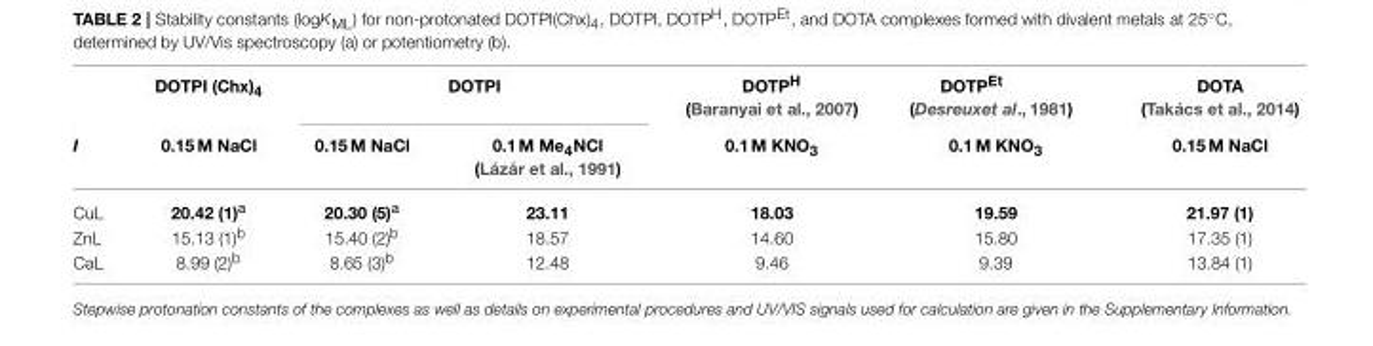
<table><thead><tr><td rowspan="2">I</td><td rowspan="2">DOTPI (Chx)<sub>4</sub> 0.15 M NaCl</td><td colspan="2">DOTPI</td><td rowspan="2">DOTP<sup>H</sup> (Baranyai et al., 2007) 0.1 M KNO<sub>3</sub></td><td rowspan="2">DOTP<sup>Et</sup> (Desreuxet al., 1981) 0.1 M KNO<sub>3</sub></td><td rowspan="2">DOTA (Takács et al., 2014) 0.15 M NaCl</td></tr><tr><td>0.15 M NaCl</td><td>0.1 M Me<sub>4</sub>NCl (Lázár et al., 1991)</td></tr></thead><tbody><tr><td>CuL</td><td>20.42 (1)<sup>a</sup></td><td>20.30 (5)<sup>a</sup></td><td>23.11</td><td>18.03</td><td>19.59</td><td>21.97 (1)</td></tr><tr><td>ZnL</td><td>15.13 (1)<sup>b</sup></td><td>15.40 (2)<sup>b</sup></td><td>18.57</td><td>14.60</td><td>15.80</td><td>17.35 (1)</td></tr><tr><td>CaL</td><td>8.99 (2)<sup>b</sup></td><td>8.65 (3)<sup>b</sup></td><td>12.48</td><td>9.46</td><td>9.39</td><td>13.84 (1)</td></tr></tbody></table>